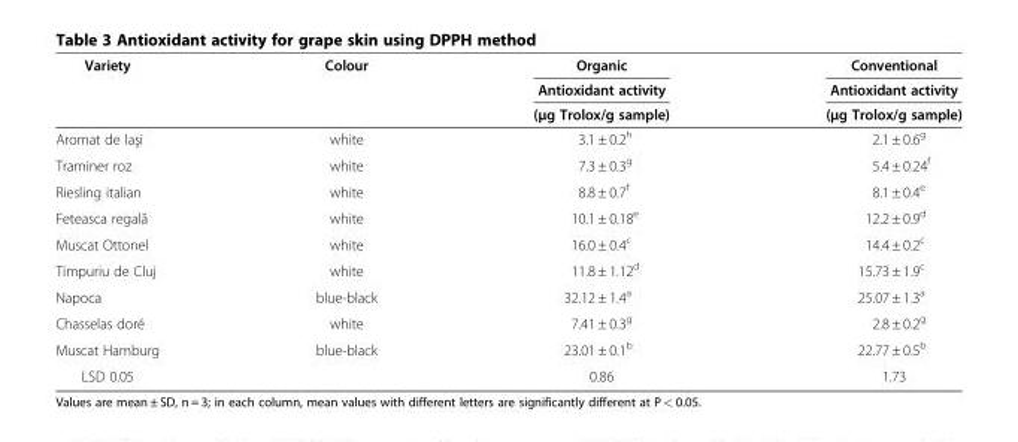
<table><thead><tr><td rowspan="3">Variety</td><td rowspan="3">Colour</td><td rowspan="3">Organic Antioxidant activity (μg Trolox/g sample)</td><td rowspan="3">Conventional Antioxidant activity (μg Trolox/g sample)</td></tr><tr></tr><tr></tr></thead><tbody><tr><td>Aromat de Iaşi</td><td>white</td><td>3.1 ± 0.2<sup>h</sup></td><td>2.1 ± 0.6<sup>g</sup></td></tr><tr><td>Traminer roz</td><td>white</td><td>7.3 ± 0.3<sup>g</sup></td><td>5.4 ± 0.24<sup>f</sup></td></tr><tr><td>Riesling italian</td><td>white</td><td>8.8 ± 0.7<sup>f</sup></td><td>8.1 ± 0.4<sup>e</sup></td></tr><tr><td>Feteasca regală</td><td>white</td><td>10.1 ± 0.18<sup>e</sup></td><td>12.2 ± 0.9<sup>d</sup></td></tr><tr><td>Muscat Ottonel</td><td>white</td><td>16.0 ± 0.4<sup>c</sup></td><td>14.4 ± 0.2<sup>c</sup></td></tr><tr><td>Timpuriu de Cluj</td><td>white</td><td>11.8 ± 1.12<sup>d</sup></td><td>15.73 ± 1.9<sup>c</sup></td></tr><tr><td>Napoca</td><td>blue-black</td><td>32.12 ± 1.4<sup>a</sup></td><td>25.07 ± 1.3<sup>a</sup></td></tr><tr><td>Chasselas doré</td><td>white</td><td>7.41 ± 0.3<sup>g</sup></td><td>2.8 ± 0.2<sup>g</sup></td></tr><tr><td>Muscat Hamburg</td><td>blue-black</td><td>23.01 ± 0.1<sup>b</sup></td><td>22.77 ± 0.5<sup>b</sup></td></tr><tr><td>LSD 0.05</td><td></td><td>0.86</td><td>1.73</td></tr></tbody></table>